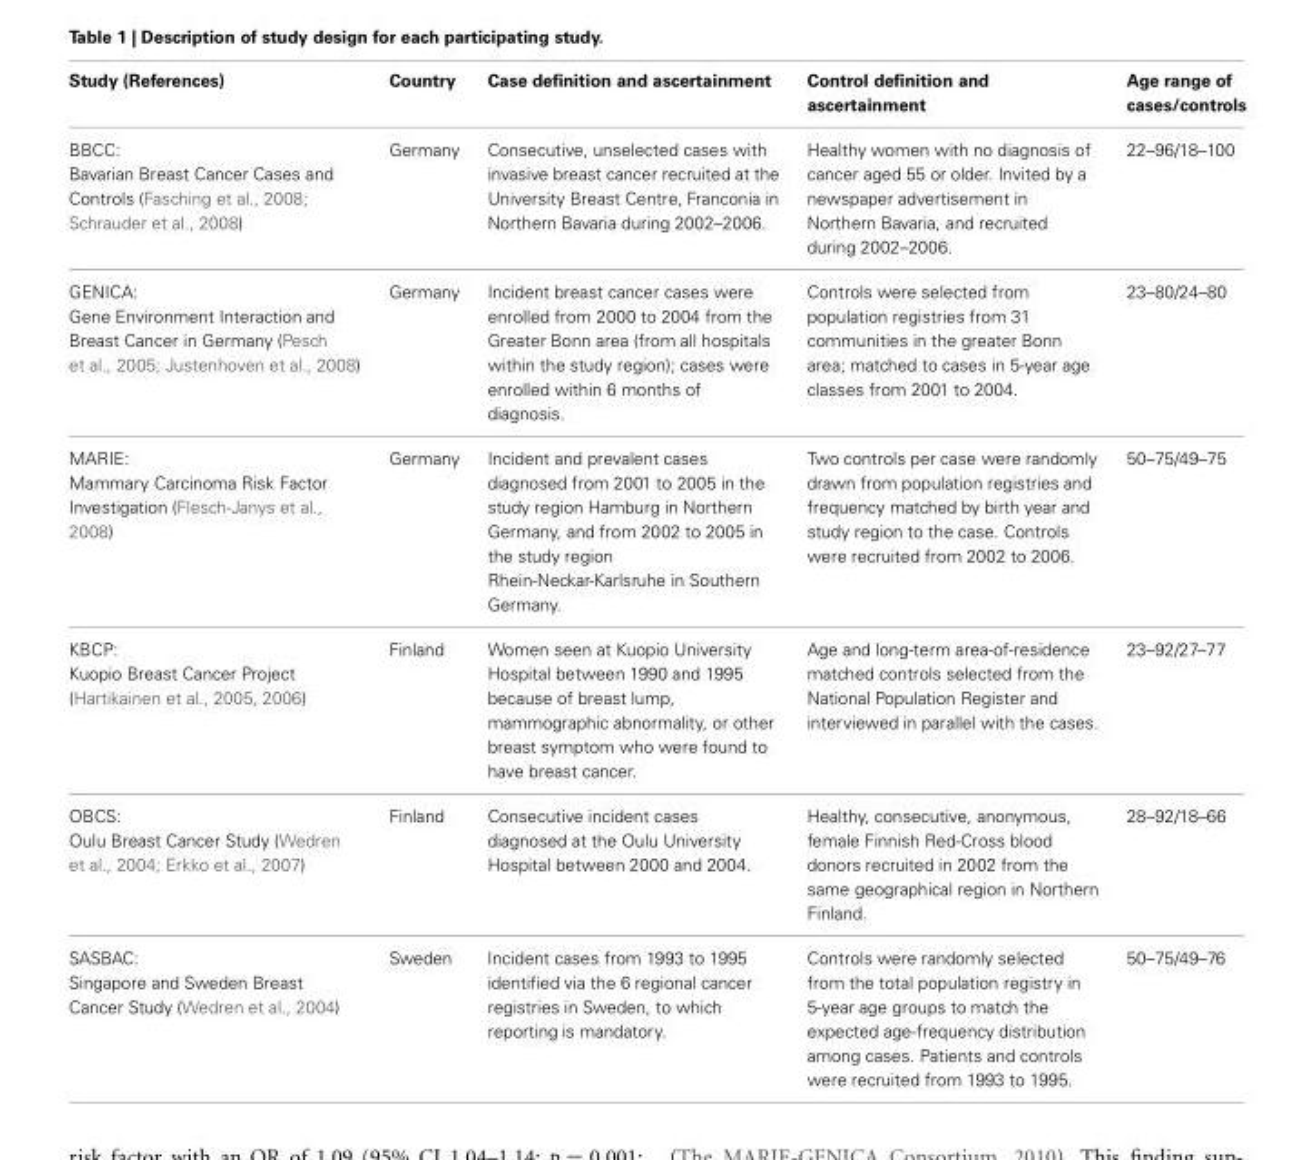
<table><thead><tr><td>Study (References)</td><td>Country</td><td>Case definition and ascertainment</td><td>Control definition and ascertainment</td><td>Age range of cases/controls</td></tr></thead><tbody><tr><td>BBCC: Bavarian Breast Cancer Cases and Controls (Fasching et al., 2008; Schrauder et al., 2008)</td><td>Germany</td><td>Consecutive, unselected cases with invasive breast cancer recruited at the University Breast Centre, Franconia in Northern Bavaria during 2002–2006.</td><td>Healthy women with no diagnosis of cancer aged 55 or older. Invited by a newspaper advertisement in Northern Bavaria, and recruited during 2002–2006.</td><td>22–96/18–100</td></tr><tr><td>GENICA: Gene Environment Interaction and Breast Cancer in Germany (Pesch et al., 2005; Justenhoven et al., 2008)</td><td>Germany</td><td>Incident breast cancer cases were enrolled from 2000 to 2004 from the Greater Bonn area (from all hospitals within the study region); cases were enrolled within 6 months of diagnosis.</td><td>Controls were selected from population registries from 31 communities in the greater Bonn area; matched to cases in 5-year age classes from 2001 to 2004.</td><td>23–80/24–80</td></tr><tr><td>MARIE: Mammary Carcinoma Risk Factor Investigation (Flesch-Janys et al., 2008)</td><td>Germany</td><td>Incident and prevalent cases diagnosed from 2001 to 2005 in the study region Hamburg in Northern Germany, and from 2002 to 2005 in the study region Rhein-Neckar-Karlsruhe in Southern Germany.</td><td>Two controls per case were randomly drawn from population registries and frequency matched by birth year and study region to the case. Controls were recruited from 2002 to 2006.</td><td>50–75/49–75</td></tr><tr><td>KBCP: Kuopio Breast Cancer Project (Hartikainen et al., 2005, 2006)</td><td>Finland</td><td>Women seen at Kuopio University Hospital between 1990 and 1995 because of breast lump, mammographic abnormality, or other breast symptom who were found to have breast cancer.</td><td>Age and long-term area-of-residence matched controls selected from the National Population Register and interviewed in parallel with the cases.</td><td>23–92/27–77</td></tr><tr><td>OBCS: Oulu Breast Cancer Study (Wedren et al., 2004; Erkko et al., 2007)</td><td>Finland</td><td>Consecutive incident cases diagnosed at the Oulu University Hospital between 2000 and 2004.</td><td>Healthy, consecutive, anonymous, female Finnish Red-Cross blood donors recruited in 2002 from the same geographical region in Northern Finland.</td><td>28–92/18–66</td></tr><tr><td>SASBAC: Singapore and Sweden Breast Cancer Study (Wedren et al., 2004)</td><td>Sweden</td><td>Incident cases from 1993 to 1995 identified via the 6 regional cancer registries in Sweden, to which reporting is mandatory.</td><td>Controls were randomly selected from the total population registry in 5-year age groups to match the expected age-frequency distribution among cases. Patients and controls were recruited from 1993 to 1995.</td><td>50–75/49–76</td></tr></tbody></table>